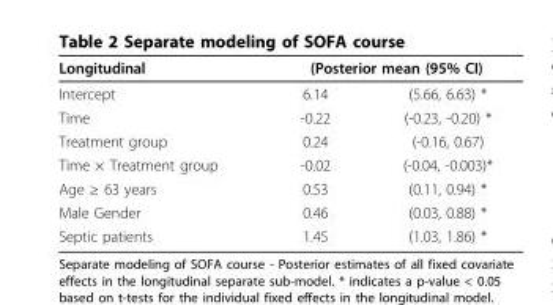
<table><thead><tr><td rowspan="2">Longitudinal Intercept</td><td colspan="2">(Posterior mean (95% CI)</td></tr><tr><td>6.14</td><td>(5.66, 6.63) *</td></tr></thead><tbody><tr><td>Time</td><td>-0.22</td><td>(-0.23, -0.20) *</td></tr><tr><td>Treatment group</td><td>0.24</td><td>(-0.16, 0.67)</td></tr><tr><td>Time × Treatment group</td><td>-0.02</td><td>(-0.04, -0.003)*</td></tr><tr><td>Age ≥ 63 years</td><td>0.53</td><td>(0.11, 0.94) *</td></tr><tr><td>Male Gender</td><td>0.46</td><td>(0.03, 0.88) *</td></tr><tr><td>Septic patients</td><td>1.45</td><td>(1.03, 1.86) *</td></tr></tbody></table>